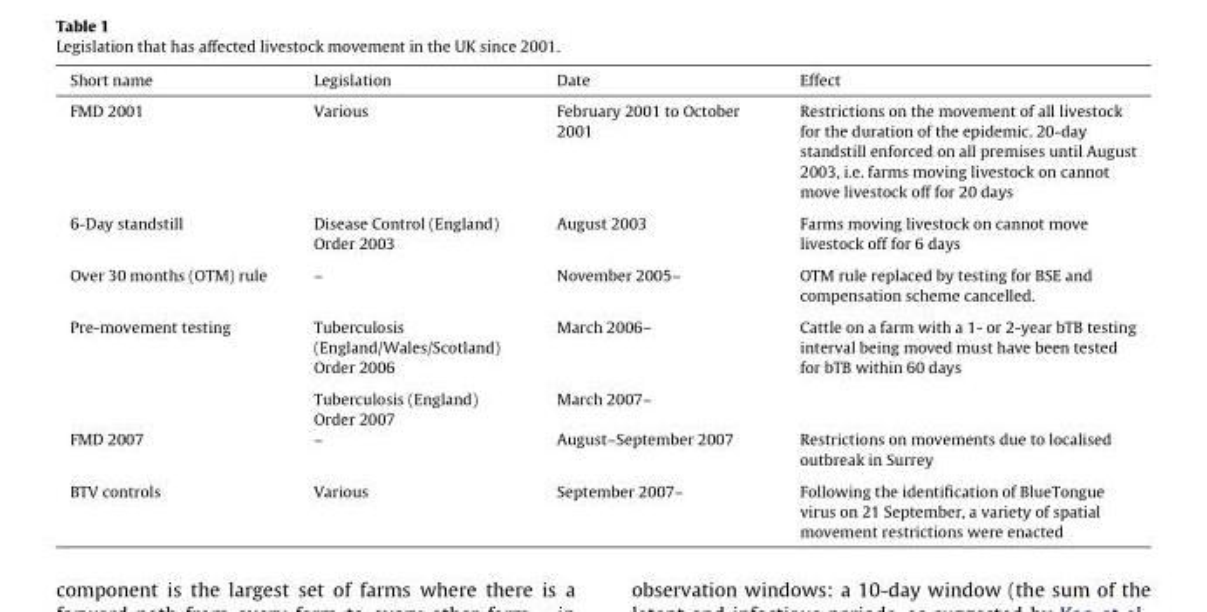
<table><thead><tr><td>Short name</td><td>Legislation</td><td>Date</td><td>Effect</td></tr></thead><tbody><tr><td>FMD 2001</td><td>Various</td><td>February 2001 to October 2001</td><td>Restrictions on the movement of all livestock for the duration of the epidemic. 20-day standstill enforced on all premises until August 2003, i.e. farms moving livestock on cannot move livestock off for 20 days</td></tr><tr><td>6-Day standstill</td><td>Disease Control (England) Order 2003</td><td>August 2003</td><td>Farms moving livestock on cannot move livestock off for 6 days</td></tr><tr><td>Over 30 months (OTM) rule</td><td>–</td><td>November 2005–</td><td>OTM rule replaced by testing for BSE and compensation scheme cancelled.</td></tr><tr><td rowspan="2">Pre-movement testing</td><td>Tuberculosis (England/Wales/Scotland) Order 2006</td><td>March 2006–</td><td>Cattle on a farm with a 1- or 2-year bTB testing interval being moved must have been tested for bTB within 60 days</td></tr><tr><td>Tuberculosis (England) Order 2007</td><td>March 2007–</td><td></td></tr><tr><td>FMD 2007</td><td>–</td><td>August–September 2007</td><td>Restrictions on movements due to localised outbreak in Surrey</td></tr><tr><td>BTV controls</td><td>Various</td><td>September 2007–</td><td>Following the identification of BlueTongue virus on 21 September, a variety of spatial movement restrictions were enacted</td></tr></tbody></table>